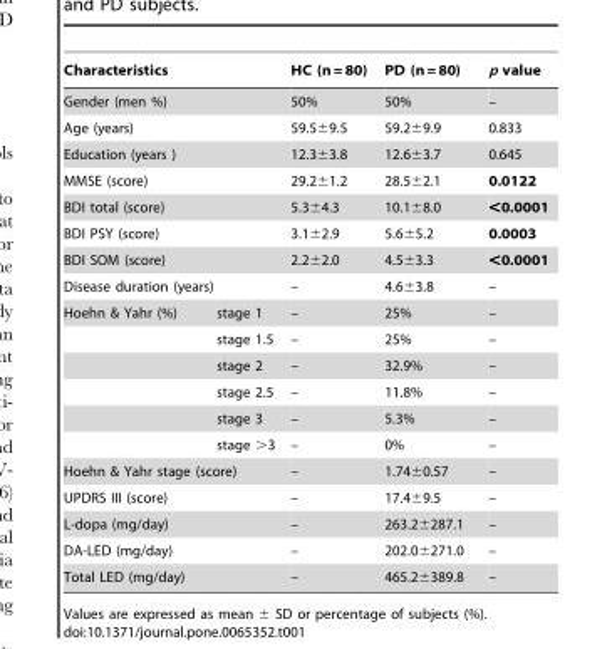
<table><thead><tr><td colspan="2">Characteristics</td><td>HC (n = 80)</td><td>PD (n = 80)</td><td>p value</td></tr></thead><tbody><tr><td colspan="2">Gender (men %)</td><td>50%</td><td>50%</td><td>–</td></tr><tr><td colspan="2">Age (years)</td><td>59.5±9.5</td><td>59.2±9.9</td><td>0.833</td></tr><tr><td colspan="2">Education (years )</td><td>12.3±3.8</td><td>12.6±3.7</td><td>0.645</td></tr><tr><td colspan="2">MMSE (score)</td><td>29.2±1.2</td><td>28.5±2.1</td><td>0.0122</td></tr><tr><td colspan="2">BDI total (score)</td><td>5.3±4.3</td><td>10.1±8.0</td><td>&lt;0.0001</td></tr><tr><td colspan="2">BDI PSY (score)</td><td>3.1±2.9</td><td>5.6±5.2</td><td>0.0003</td></tr><tr><td colspan="2">BDI SOM (score)</td><td>2.2±2.0</td><td>4.5±3.3</td><td>&lt;0.0001</td></tr><tr><td colspan="2">Disease duration (years)</td><td>–</td><td>4.6±3.8</td><td>–</td></tr><tr><td rowspan="6">Hoehn &amp; Yahr (%)</td><td>stage 1</td><td>–</td><td>25%</td><td>–</td></tr><tr><td>stage 1.5</td><td>–</td><td>25%</td><td>–</td></tr><tr><td>stage 2</td><td>–</td><td>32.9%</td><td>–</td></tr><tr><td>stage 2.5</td><td>–</td><td>11.8%</td><td>–</td></tr><tr><td>stage 3</td><td>–</td><td>5.3%</td><td>–</td></tr><tr><td>stage &gt;3</td><td>–</td><td>0%</td><td>–</td></tr><tr><td colspan="2">Hoehn &amp; Yahr stage (score)</td><td>–</td><td>1.74±0.57</td><td>–</td></tr><tr><td colspan="2">UPDRS III (score)</td><td>–</td><td>17.4±9.5</td><td>–</td></tr><tr><td colspan="2">L-dopa (mg/day)</td><td>–</td><td>263.2±287.1</td><td>–</td></tr><tr><td colspan="2">DA-LED (mg/day)</td><td>–</td><td>202.0±271.0</td><td>–</td></tr><tr><td colspan="2">Total LED (mg/day)</td><td>–</td><td>465.2±389.8</td><td>–</td></tr></tbody></table>